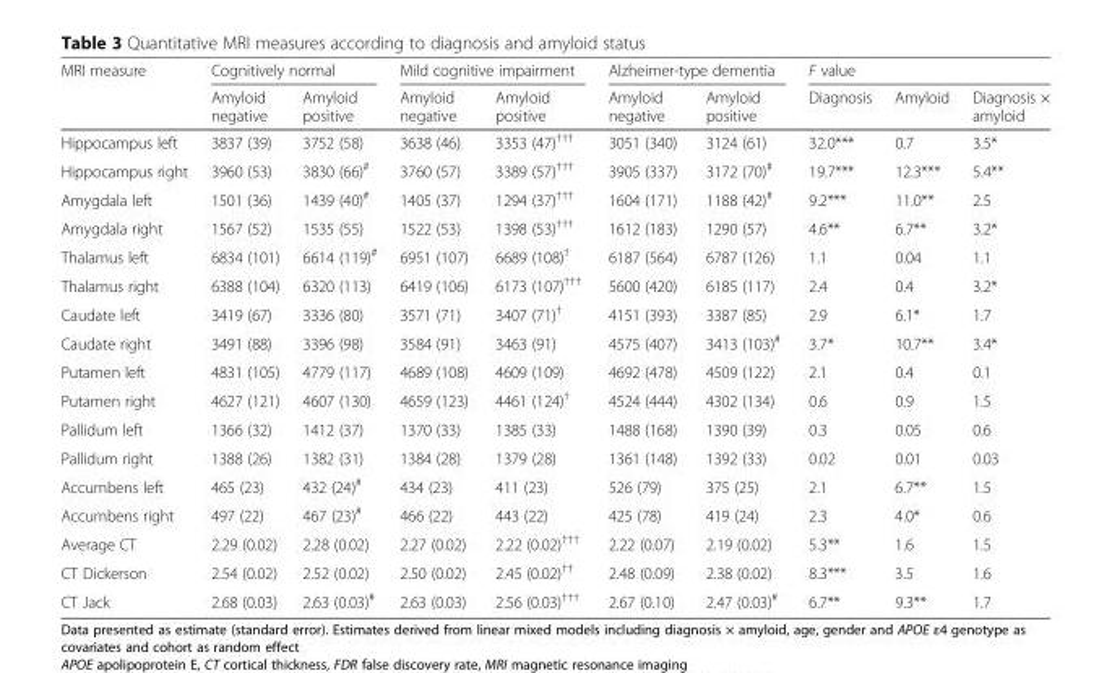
<table><thead><tr><td rowspan="2">MRI measure</td><td colspan="2">Cognitively normal</td><td colspan="2">Mild cognitive impairment</td><td colspan="2">Alzheimer-type dementia</td><td colspan="3">F value</td></tr><tr><td>Amyloid negative</td><td>Amyloid positive</td><td>Amyloid negative</td><td>Amyloid positive</td><td>Amyloid negative</td><td>Amyloid positive</td><td>Diagnosis</td><td>Amyloid</td><td>Diagnosis × amyloid</td></tr></thead><tbody><tr><td>Hippocampus left</td><td>3837 (39)</td><td>3752 (58)</td><td>3638 (46)</td><td>3353 (47)<sup>†††</sup></td><td>3051 (340)</td><td>3124 (61)</td><td>32.0***</td><td>0.7</td><td>3.5*</td></tr><tr><td>Hippocampus right</td><td>3960 (53)</td><td>3830 (66)<sup>#</sup></td><td>3760 (57)</td><td>3389 (57)<sup>†††</sup></td><td>3905 (337)</td><td>3172 (70)<sup>#</sup></td><td>19.7***</td><td>12.3***</td><td>5.4**</td></tr><tr><td>Amygdala left</td><td>1501 (36)</td><td>1439 (40)<sup>#</sup></td><td>1405 (37)</td><td>1294 (37)<sup>†††</sup></td><td>1604 (171)</td><td>1188 (42)<sup>#</sup></td><td>9.2***</td><td>11.0**</td><td>2.5</td></tr><tr><td>Amygdala right</td><td>1567 (52)</td><td>1535 (55)</td><td>1522 (53)</td><td>1398 (53)<sup>†††</sup></td><td>1612 (183)</td><td>1290 (57)</td><td>4.6**</td><td>6.7**</td><td>3.2*</td></tr><tr><td>Thalamus left</td><td>6834 (101)</td><td>6614 (119)<sup>#</sup></td><td>6951 (107)</td><td>6689 (108)<sup>†</sup></td><td>6187 (564)</td><td>6787 (126)</td><td>1.1</td><td>0.04</td><td>1.1</td></tr><tr><td>Thalamus right</td><td>6388 (104)</td><td>6320 (113)</td><td>6419 (106)</td><td>6173 (107)<sup>†††</sup></td><td>5600 (420)</td><td>6185 (117)</td><td>2.4</td><td>0.4</td><td>3.2*</td></tr><tr><td>Caudate left</td><td>3419 (67)</td><td>3336 (80)</td><td>3571 (71)</td><td>3407 (71)<sup>†</sup></td><td>4151 (393)</td><td>3387 (85)</td><td>2.9</td><td>6.1*</td><td>1.7</td></tr><tr><td>Caudate right</td><td>3491 (88)</td><td>3396 (98)</td><td>3584 (91)</td><td>3463 (91)</td><td>4575 (407)</td><td>3413 (103)<sup>#</sup></td><td>3.7*</td><td>10.7**</td><td>3.4*</td></tr><tr><td>Putamen left</td><td>4831 (105)</td><td>4779 (117)</td><td>4689 (108)</td><td>4609 (109)</td><td>4692 (478)</td><td>4509 (122)</td><td>2.1</td><td>0.4</td><td>0.1</td></tr><tr><td>Putamen right</td><td>4627 (121)</td><td>4607 (130)</td><td>4659 (123)</td><td>4461 (124)<sup>†</sup></td><td>4524 (444)</td><td>4302 (134)</td><td>0.6</td><td>0.9</td><td>1.5</td></tr><tr><td>Pallidum left</td><td>1366 (32)</td><td>1412 (37)</td><td>1370 (33)</td><td>1385 (33)</td><td>1488 (168)</td><td>1390 (39)</td><td>0.3</td><td>0.05</td><td>0.6</td></tr><tr><td>Pallidum right</td><td>1388 (26)</td><td>1382 (31)</td><td>1384 (28)</td><td>1379 (28)</td><td>1361 (148)</td><td>1392 (33)</td><td>0.02</td><td>0.01</td><td>0.03</td></tr><tr><td>Accumbens left</td><td>465 (23)</td><td>432 (24)<sup>#</sup></td><td>434 (23)</td><td>411 (23)</td><td>526 (79)</td><td>375 (25)</td><td>2.1</td><td>6.7**</td><td>1.5</td></tr><tr><td>Accumbens right</td><td>497 (22)</td><td>467 (23)<sup>#</sup></td><td>466 (22)</td><td>443 (22)</td><td>425 (78)</td><td>419 (24)</td><td>2.3</td><td>4.0*</td><td>0.6</td></tr><tr><td>Average CT</td><td>2.29 (0.02)</td><td>2.28 (0.02)</td><td>2.27 (0.02)</td><td>2.22 (0.02)<sup>†††</sup></td><td>2.22 (0.07)</td><td>2.19 (0.02)</td><td>5.3**</td><td>1.6</td><td>1.5</td></tr><tr><td>CT Dickerson</td><td>2.54 (0.02)</td><td>2.52 (0.02)</td><td>2.50 (0.02)</td><td>2.45 (0.02)<sup>††</sup></td><td>2.48 (0.09)</td><td>2.38 (0.02)</td><td>8.3***</td><td>3.5</td><td>1.6</td></tr><tr><td>CT Jack</td><td>2.68 (0.03)</td><td>2.63 (0.03)<sup>#</sup></td><td>2.63 (0.03)</td><td>2.56 (0.03)<sup>†††</sup></td><td>2.67 (0.10)</td><td>2.47 (0.03)<sup>#</sup></td><td>6.7**</td><td>9.3**</td><td>1.7</td></tr></tbody></table>